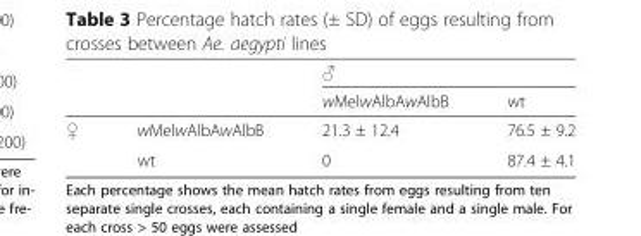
<table><thead><tr><td rowspan="2"></td><td rowspan="2"></td><td colspan="2">♂</td></tr><tr><td>wMelwAlbAwAlbB</td><td>wt</td></tr></thead><tbody><tr><td rowspan="2">♀</td><td>wMelwAlbAwAlbB</td><td>21.3 ± 12.4</td><td>76.5 ± 9.2</td></tr><tr><td>wt</td><td>0</td><td>87.4 ± 4.1</td></tr></tbody></table>